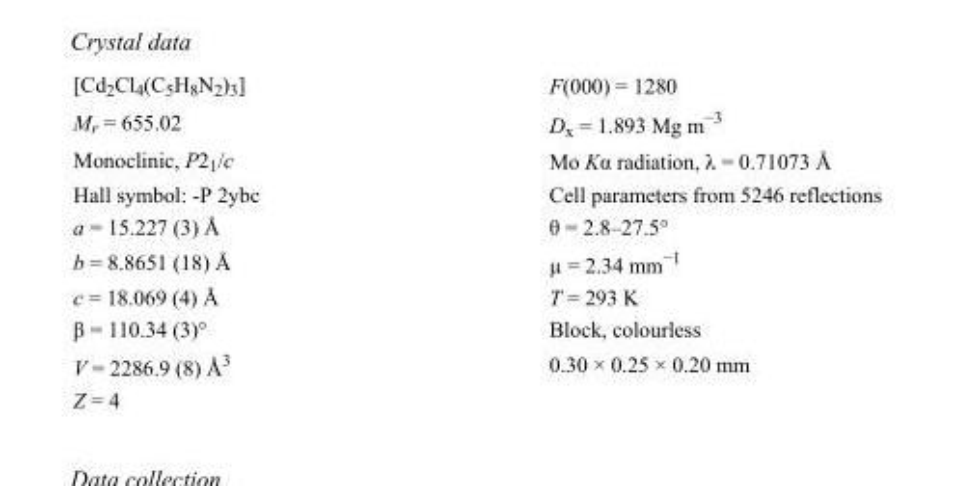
<table><tbody><tr><td>[Cd<sub>2</sub>Cl<sub>4</sub>(C<sub>5</sub>H<sub>8</sub>N<sub>2</sub>)<sub>3</sub>]</td><td>F(000) = 1280</td></tr><tr><td>M<sub>r</sub> = 655.02</td><td>D<sub>x</sub> = 1.893 Mg m<sup>−3</sup></td></tr><tr><td>Monoclinic, P2<sub>1</sub>/c</td><td>Mo Kα radiation, λ = 0.71073 Å</td></tr><tr><td>Hall symbol: -P 2ybc</td><td>Cell parameters from 5246 reflections</td></tr><tr><td>a = 15.227 (3) Å</td><td>θ = 2.8–27.5°</td></tr><tr><td>b = 8.8651 (18) Å</td><td>µ = 2.34 mm<sup>−1</sup></td></tr><tr><td>c = 18.069 (4) Å</td><td>T = 293 K</td></tr><tr><td>β = 110.34 (3)°</td><td>Block, colourless</td></tr><tr><td>V = 2286.9 (8) Å<sup>3</sup></td><td>0.30 × 0.25 × 0.20 mm</td></tr><tr><td>Z = 4</td><td></td></tr></tbody></table>